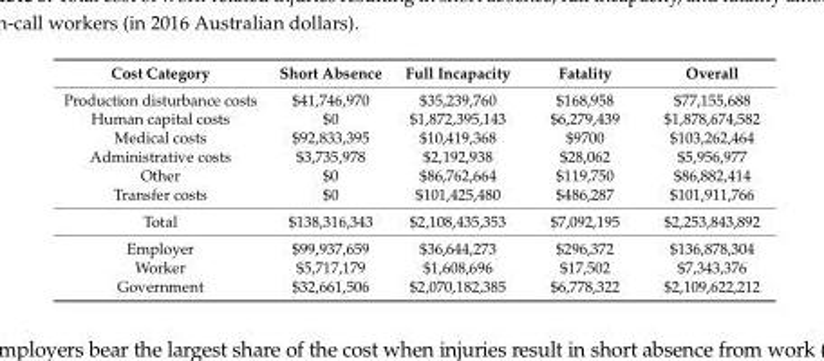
<table><thead><tr><td>Cost Category</td><td>Short Absence</td><td>Full Incapacity</td><td>Fatality</td><td>Overall</td></tr></thead><tbody><tr><td>Production disturbance costs</td><td>$41,746,970</td><td>$35,239,760</td><td>$168,958</td><td>$77,155,688</td></tr><tr><td>Human capital costs</td><td>$0</td><td>$1,872,395,143</td><td>$6,279,439</td><td>$1,878,674,582</td></tr><tr><td>Medical costs</td><td>$92,833,395</td><td>$10,419,368</td><td>$9700</td><td>$103,262,464</td></tr><tr><td>Administrative costs</td><td>$3,735,978</td><td>$2,192,938</td><td>$28,062</td><td>$5,956,977</td></tr><tr><td>Other</td><td>$0</td><td>$86,762,664</td><td>$119,750</td><td>$86,882,414</td></tr><tr><td>Transfer costs</td><td>$0</td><td>$101,425,480</td><td>$486,287</td><td>$101,911,766</td></tr><tr><td>Total</td><td>$138,316,343</td><td>$2,108,435,353</td><td>$7,092,195</td><td>$2,253,843,892</td></tr><tr><td>Employer</td><td>$99,937,659</td><td>$36,644,273</td><td>$296,372</td><td>$136,878,304</td></tr><tr><td>Worker</td><td>$5,717,179</td><td>$1,608,696</td><td>$17,502</td><td>$7,343,376</td></tr><tr><td>Government</td><td>$32,661,506</td><td>$2,070,182,385</td><td>$6,778,322</td><td>$2,109,622,212</td></tr></tbody></table>